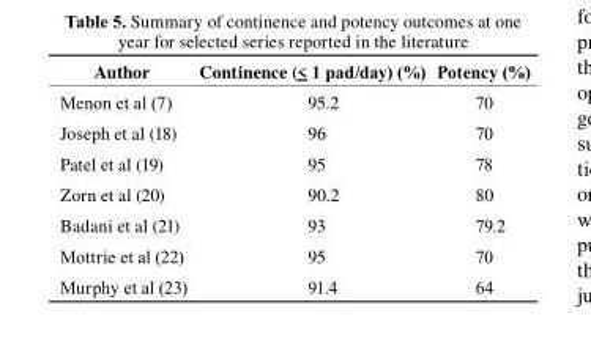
<table><thead><tr><td>Author</td><td>continence (&lt; 1 pad/day) (%)</td><td>Potency (%)</td></tr></thead><tbody><tr><td>Menon et al (7)</td><td>95.2</td><td>70</td></tr><tr><td>Joseph et al (18)</td><td>96</td><td>70</td></tr><tr><td>Patel et al (19)</td><td>95</td><td>78</td></tr><tr><td>Zorn et al (20)</td><td>90.2</td><td>80</td></tr><tr><td>Badani et al (21)</td><td>93</td><td>79.2</td></tr><tr><td>Mottrie et al (22)</td><td>95</td><td>70</td></tr><tr><td>Murphy et al (23)</td><td>91.4</td><td>64</td></tr></tbody></table>